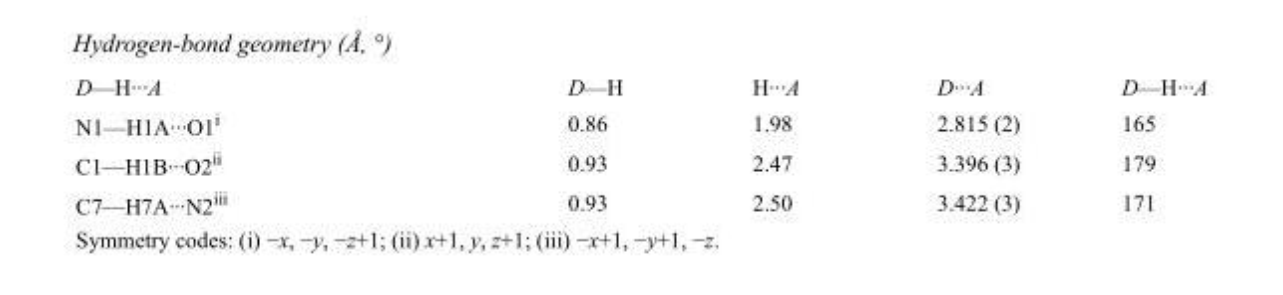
<table><tbody><tr><td>D—H···A</td><td>D—H</td><td>H···A</td><td>D···A</td><td>D—H···A</td></tr><tr><td>N1—H1A···O1<sup>i</sup></td><td>0.86</td><td>1.98</td><td>2.815 (2)</td><td>165</td></tr><tr><td>C1—H1B···O2<sup>ii</sup></td><td>0.93</td><td>2.47</td><td>3.396 (3)</td><td>179</td></tr><tr><td>C7—H7A···N2<sup>iii</sup></td><td>0.93</td><td>2.50</td><td>3.422 (3)</td><td>171</td></tr></tbody></table>